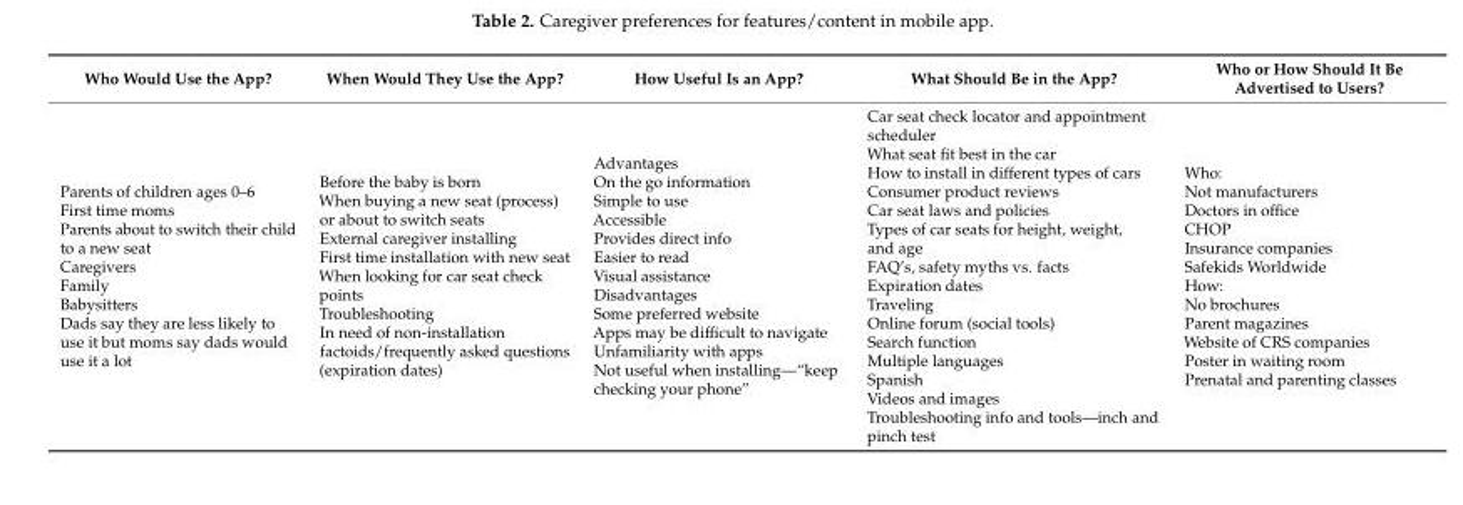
<table><thead><tr><td>Who Would Use the App?</td><td>When Would They Use the App?</td><td>How Useful Is an App?</td><td>What Should Be in the App?</td><td>Who or How Should It Be Advertised to Users?</td></tr></thead><tbody><tr><td>Parents of children ages 0–6 First time moms Parents about to switch their child to a new seat Caregivers Family Babysitters Dads say they are less likely to use it but moms say dads would use it a lot</td><td>Before the baby is born When buying a new seat (process) or about to switch seats External caregiver installing First time installation with new seat When looking for car seat check points Troubleshooting In need of non-installation factoids/frequently asked questions (expiration dates)</td><td>Advantages On the go information Simple to use Accessible Provides direct info Easier to read Visual assistance Disadvantages Some preferred website Apps may be difficult to navigate Unfamiliarity with apps Not useful when installing—“keep checking your phone”</td><td>Car seat check locator and appointment scheduler What seat fit best in the car How to install in different types of cars Consumer product reviews Car seat laws and policies Types of car seats for height, weight, and age FAQ’s, safety myths vs. facts Expiration dates Traveling Online forum (social tools) Search function Multiple languages Spanish Videos and images Troubleshooting info and tools—inch and pinch test</td><td>Who: Not manufacturers Doctors in office CHOP Insurance companies Safekids Worldwide How: No brochures Parent magazines Website of CRS companies Poster in waiting room Prenatal and parenting classes</td></tr></tbody></table>